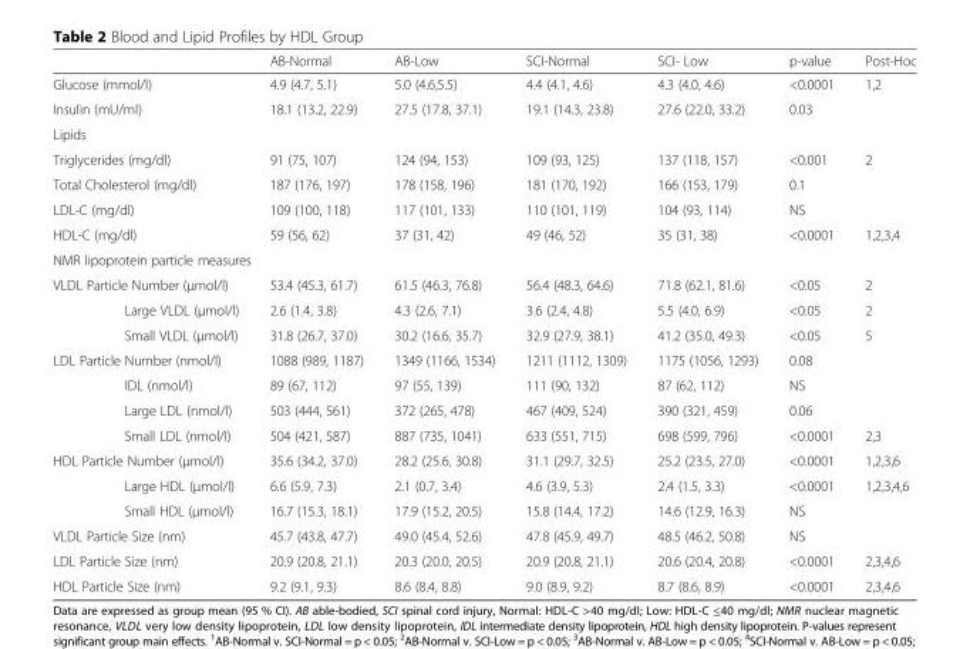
<table><thead><tr><td></td><td>AB-Normal</td><td>AB-Low</td><td>SCI-Normal</td><td>SCI- Low</td><td>p-value</td><td>Post-Hoc</td></tr></thead><tbody><tr><td>Glucose (mmol/l)</td><td>4.9 (4.7, 5.1)</td><td>5.0 (4.6,5.5)</td><td>4.4 (4.1, 4.6)</td><td>4.3 (4.0, 4.6)</td><td>&lt;0.0001</td><td>1,2</td></tr><tr><td>Insulin (mU/ml)</td><td>18.1 (13.2, 22.9)</td><td>27.5 (17.8, 37.1)</td><td>19.1 (14.3, 23.8)</td><td>27.6 (22.0, 33.2)</td><td>0.03</td><td></td></tr><tr><td colspan="7">Lipids</td></tr><tr><td>Triglycerides (mg/dl)</td><td>91 (75, 107)</td><td>124 (94, 153)</td><td>109 (93, 125)</td><td>137 (118, 157)</td><td>&lt;0.001</td><td>2</td></tr><tr><td>Total Cholesterol (mg/dl)</td><td>187 (176, 197)</td><td>178 (158, 196)</td><td>181 (170, 192)</td><td>166 (153, 179)</td><td>0.1</td><td></td></tr><tr><td>LDL-C (mg/dl)</td><td>109 (100, 118)</td><td>117 (101, 133)</td><td>110 (101, 119)</td><td>104 (93, 114)</td><td>NS</td><td></td></tr><tr><td>HDL-C (mg/dl)</td><td>59 (56, 62)</td><td>37 (31, 42)</td><td>49 (46, 52)</td><td>35 (31, 38)</td><td>&lt;0.0001</td><td>1,2,3,4</td></tr><tr><td colspan="7">NMR lipoprotein particle measures</td></tr><tr><td>VLDL Particle Number (μmol/l)</td><td>53.4 (45.3, 61.7)</td><td>61.5 (46.3, 76.8)</td><td>56.4 (48.3, 64.6)</td><td>71.8 (62.1, 81.6)</td><td>&lt;0.05</td><td>2</td></tr><tr><td>Large VLDL (μmol/l)</td><td>2.6 (1.4, 3.8)</td><td>4.3 (2.6, 7.1)</td><td>3.6 (2.4, 4.8)</td><td>5.5 (4.0, 6.9)</td><td>&lt;0.05</td><td>2</td></tr><tr><td>Small VLDL (μmol/l)</td><td>31.8 (26.7, 37.0)</td><td>30.2 (16.6, 35.7)</td><td>32.9 (27.9, 38.1)</td><td>41.2 (35.0, 49.3)</td><td>&lt;0.05</td><td>5</td></tr><tr><td>LDL Particle Number (nmol/l)</td><td>1088 (989, 1187)</td><td>1349 (1166, 1534)</td><td>1211 (1112, 1309)</td><td>1175 (1056, 1293)</td><td>0.08</td><td></td></tr><tr><td>IDL (nmol/l)</td><td>89 (67, 112)</td><td>97 (55, 139)</td><td>111 (90, 132)</td><td>87 (62, 112)</td><td>NS</td><td></td></tr><tr><td>Large LDL (nmol/l)</td><td>503 (444, 561)</td><td>372 (265, 478)</td><td>467 (409, 524)</td><td>390 (321, 459)</td><td>0.06</td><td></td></tr><tr><td>Small LDL (nmol/l)</td><td>504 (421, 587)</td><td>887 (735, 1041)</td><td>633 (551, 715)</td><td>698 (599, 796)</td><td>&lt;0.0001</td><td>2,3</td></tr><tr><td>HDL Particle Number (μmol/l)</td><td>35.6 (34.2, 37.0)</td><td>28.2 (25.6, 30.8)</td><td>31.1 (29.7, 32.5)</td><td>25.2 (23.5, 27.0)</td><td>&lt;0.0001</td><td>1,2,3,6</td></tr><tr><td>Large HDL (μmol/l)</td><td>6.6 (5.9, 7.3)</td><td>2.1 (0.7, 3.4)</td><td>4.6 (3.9, 5.3)</td><td>2.4 (1.5, 3.3)</td><td>&lt;0.0001</td><td>1,2,3,4,6</td></tr><tr><td>Small HDL (μmol/l)</td><td>16.7 (15.3, 18.1)</td><td>17.9 (15.2, 20.5)</td><td>15.8 (14.4, 17.2)</td><td>14.6 (12.9, 16.3)</td><td>NS</td><td></td></tr><tr><td>VLDL Particle Size (nm)</td><td>45.7 (43.8, 47.7)</td><td>49.0 (45.4, 52.6)</td><td>47.8 (45.9, 49.7)</td><td>48.5 (46.2, 50.8)</td><td>NS</td><td></td></tr><tr><td>LDL Particle Size (nm)</td><td>20.9 (20.8, 21.1)</td><td>20.3 (20.0, 20.5)</td><td>20.9 (20.8, 21.1)</td><td>20.6 (20.4, 20.8)</td><td>&lt;0.0001</td><td>2,3,4,6</td></tr><tr><td>HDL Particle Size (nm)</td><td>9.2 (9.1, 9.3)</td><td>8.6 (8.4, 8.8)</td><td>9.0 (8.9, 9.2)</td><td>8.7 (8.6, 8.9)</td><td>&lt;0.0001</td><td>2,3,4,6</td></tr></tbody></table>